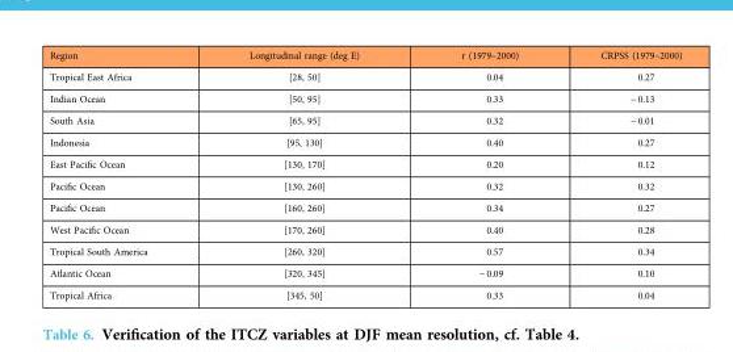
<table><thead><tr><td>Region</td><td>Longitudinal range (deg E)</td><td>r (1979–2000)</td><td>CRPSS (1979–2000)</td></tr></thead><tbody><tr><td>Tropical East Africa</td><td>[28, 50]</td><td>0.04</td><td>0.27</td></tr><tr><td>Indian Ocean</td><td>[50, 95]</td><td>0.33</td><td>− 0.13</td></tr><tr><td>South Asia</td><td>[65, 95]</td><td>0.32</td><td>− 0.01</td></tr><tr><td>Indonesia</td><td>[95, 130]</td><td>0.40</td><td>0.27</td></tr><tr><td>East Pacific Ocean</td><td>[130, 170]</td><td>0.20</td><td>0.12</td></tr><tr><td>Pacific Ocean</td><td>[130, 260]</td><td>0.32</td><td>0.32</td></tr><tr><td>Pacific Ocean</td><td>[160, 260]</td><td>0.34</td><td>0.27</td></tr><tr><td>West Pacific Ocean</td><td>[170, 260]</td><td>0.40</td><td>0.28</td></tr><tr><td>Tropical South America</td><td>[260, 320]</td><td>0.57</td><td>0.34</td></tr><tr><td>Atlantic Ocean</td><td>[320, 345]</td><td>− 0.09</td><td>0.10</td></tr><tr><td>Tropical Africa</td><td>[345, 50]</td><td>0.33</td><td>0.04</td></tr></tbody></table>